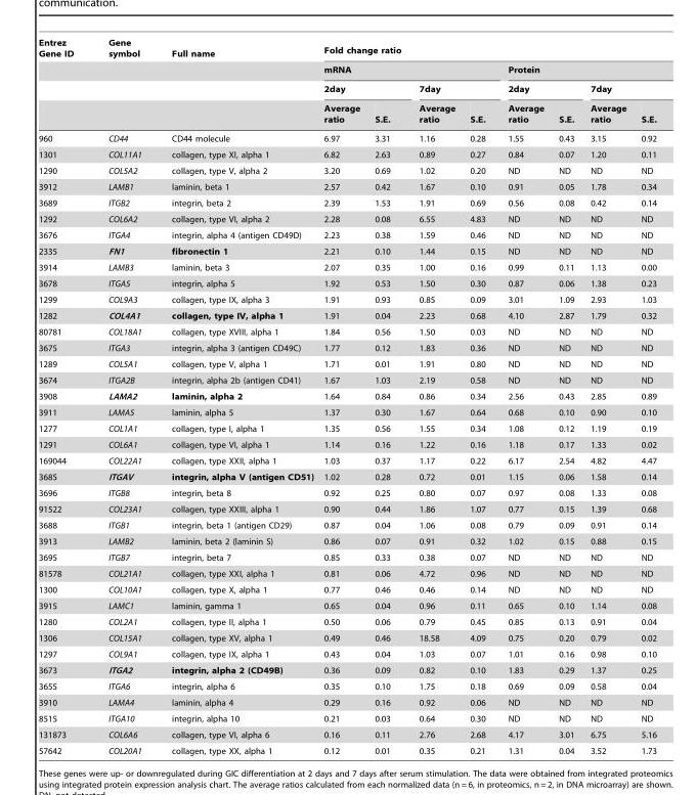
<table><thead><tr><td rowspan="4">Entrez Gene ID</td><td rowspan="4">Gene symbol</td><td rowspan="4">Full name</td><td colspan="8">Fold change ratio</td></tr><tr><td colspan="4">mRNA</td><td colspan="4">Protein</td></tr><tr><td colspan="2">2day</td><td colspan="2">7day</td><td colspan="2">2day</td><td colspan="2">7day</td></tr><tr><td>Average ratio</td><td>S.E.</td><td>Average ratio</td><td>S.E.</td><td>Average ratio</td><td>S.E.</td><td>Average ratio</td><td>S.E.</td></tr></thead><tbody><tr><td>960</td><td>CD44</td><td>CD44 molecule</td><td>6.97</td><td>3.31</td><td>1.16</td><td>0.28</td><td>1.55</td><td>0.43</td><td>3.15</td><td>0.92</td></tr><tr><td>1301</td><td>COL11A1</td><td>collagen, type XI, alpha 1</td><td>6.82</td><td>2.63</td><td>0.89</td><td>0.27</td><td>0.84</td><td>0.07</td><td>1.20</td><td>0.11</td></tr><tr><td>1290</td><td>COL5A2</td><td>collagen, type V, alpha 2</td><td>3.20</td><td>0.69</td><td>1.02</td><td>0.20</td><td>ND</td><td>ND</td><td>ND</td><td>ND</td></tr><tr><td>3912</td><td>LAMB1</td><td>laminin, beta 1</td><td>2.57</td><td>0.42</td><td>1.67</td><td>0.10</td><td>0.91</td><td>0.05</td><td>1.78</td><td>0.34</td></tr><tr><td>3689</td><td>ITGB2</td><td>integrin, beta 2</td><td>2.39</td><td>1.53</td><td>1.91</td><td>0.69</td><td>0.56</td><td>0.08</td><td>0.42</td><td>0.14</td></tr><tr><td>1292</td><td>COL6A2</td><td>collagen, type VI, alpha 2</td><td>2.28</td><td>0.08</td><td>6.55</td><td>4.83</td><td>ND</td><td>ND</td><td>ND</td><td>ND</td></tr><tr><td>3676</td><td>ITGA4</td><td>integrin, alpha 4 (antigen CD49D)</td><td>2.23</td><td>0.38</td><td>1.59</td><td>0.46</td><td>ND</td><td>ND</td><td>ND</td><td>ND</td></tr><tr><td>2335</td><td>FN1</td><td>fibronectin 1</td><td>2.21</td><td>0.10</td><td>1.44</td><td>0.15</td><td>ND</td><td>ND</td><td>ND</td><td>ND</td></tr><tr><td>3914</td><td>LAMB3</td><td>laminin, beta 3</td><td>2.07</td><td>0.35</td><td>1.00</td><td>0.16</td><td>0.99</td><td>0.11</td><td>1.13</td><td>0.00</td></tr><tr><td>3678</td><td>ITGA5</td><td>integrin, alpha 5</td><td>1.92</td><td>0.53</td><td>1.50</td><td>0.30</td><td>0.87</td><td>0.06</td><td>1.38</td><td>0.23</td></tr><tr><td>1299</td><td>COL9A3</td><td>collagen, type IX, alpha 3</td><td>1.91</td><td>0.93</td><td>0.85</td><td>0.09</td><td>3.01</td><td>1.09</td><td>2.93</td><td>1.03</td></tr><tr><td>1282</td><td>COL4A1</td><td>collagen, type IV, alpha 1</td><td>1.91</td><td>0.04</td><td>2.23</td><td>0.68</td><td>4.10</td><td>2.87</td><td>1.79</td><td>0.32</td></tr><tr><td>80781</td><td>COL18A1</td><td>collagen, type XVIII, alpha 1</td><td>1.84</td><td>0.56</td><td>1.50</td><td>0.03</td><td>ND</td><td>ND</td><td>ND</td><td>ND</td></tr><tr><td>3675</td><td>ITGA3</td><td>integrin, alpha 3 (antigen CD49C)</td><td>1.77</td><td>0.12</td><td>1.83</td><td>0.36</td><td>ND</td><td>ND</td><td>ND</td><td>ND</td></tr><tr><td>1289</td><td>COL5A1</td><td>collagen, type V, alpha 1</td><td>1.71</td><td>0.01</td><td>1.91</td><td>0.80</td><td>ND</td><td>ND</td><td>ND</td><td>ND</td></tr><tr><td>3674</td><td>ITGA2B</td><td>integrin, alpha 2b (antigen CD41)</td><td>1.67</td><td>1.03</td><td>2.19</td><td>0.58</td><td>ND</td><td>ND</td><td>ND</td><td>ND</td></tr><tr><td>3908</td><td>LAMA2</td><td>laminin, alpha 2</td><td>1.64</td><td>0.84</td><td>0.86</td><td>0.34</td><td>2.56</td><td>0.43</td><td>2.85</td><td>0.89</td></tr><tr><td>3911</td><td>LAMA5</td><td>laminin, alpha 5</td><td>1.37</td><td>0.30</td><td>1.67</td><td>0.64</td><td>0.68</td><td>0.10</td><td>0.90</td><td>0.10</td></tr><tr><td>1277</td><td>COL1A1</td><td>collagen, type I, alpha 1</td><td>1.35</td><td>0.56</td><td>1.55</td><td>0.34</td><td>1.08</td><td>0.12</td><td>1.19</td><td>0.19</td></tr><tr><td>1291</td><td>COL6A1</td><td>collagen, type VI, alpha 1</td><td>1.14</td><td>0.16</td><td>1.22</td><td>0.16</td><td>1.18</td><td>0.17</td><td>1.33</td><td>0.02</td></tr><tr><td>169044</td><td>COL22A1</td><td>collagen, type XXII, alpha 1</td><td>1.03</td><td>0.37</td><td>1.17</td><td>0.22</td><td>6.17</td><td>2.54</td><td>4.82</td><td>4.47</td></tr><tr><td>3685</td><td>ITGAV</td><td>integrin, alpha V (antigen CD51)</td><td>1.02</td><td>0.28</td><td>0.72</td><td>0.01</td><td>1.15</td><td>0.06</td><td>1.58</td><td>0.14</td></tr><tr><td>3696</td><td>ITGB8</td><td>integrin, beta 8</td><td>0.92</td><td>0.25</td><td>0.80</td><td>0.07</td><td>0.97</td><td>0.08</td><td>1.33</td><td>0.08</td></tr><tr><td>91522</td><td>COL23A1</td><td>collagen, type XXIII, alpha 1</td><td>0.90</td><td>0.44</td><td>1.86</td><td>1.07</td><td>0.77</td><td>0.15</td><td>1.39</td><td>0.68</td></tr><tr><td>3688</td><td>ITGB1</td><td>integrin, beta 1 (antigen CD29)</td><td>0.87</td><td>0.04</td><td>1.06</td><td>0.08</td><td>0.79</td><td>0.09</td><td>0.91</td><td>0.14</td></tr><tr><td>3913</td><td>LAMB2</td><td>laminin, beta 2 (laminin S)</td><td>0.86</td><td>0.07</td><td>0.91</td><td>0.32</td><td>1.02</td><td>0.15</td><td>0.88</td><td>0.15</td></tr><tr><td>3695</td><td>ITGB7</td><td>integrin, beta 7</td><td>0.85</td><td>0.33</td><td>0.38</td><td>0.07</td><td>ND</td><td>ND</td><td>ND</td><td>ND</td></tr><tr><td>81578</td><td>COL21A1</td><td>collagen, type XXI, alpha 1</td><td>0.81</td><td>0.06</td><td>4.72</td><td>0.96</td><td>ND</td><td>ND</td><td>ND</td><td>ND</td></tr><tr><td>1300</td><td>COL10A1</td><td>collagen, type X, alpha 1</td><td>0.77</td><td>0.46</td><td>0.46</td><td>0.14</td><td>ND</td><td>ND</td><td>ND</td><td>ND</td></tr><tr><td>3915</td><td>LAMC1</td><td>laminin, gamma 1</td><td>0.65</td><td>0.04</td><td>0.96</td><td>0.11</td><td>0.65</td><td>0.10</td><td>1.14</td><td>0.08</td></tr><tr><td>1280</td><td>COL2A1</td><td>collagen, type II, alpha 1</td><td>0.50</td><td>0.06</td><td>0.79</td><td>0.45</td><td>0.85</td><td>0.13</td><td>0.91</td><td>0.04</td></tr><tr><td>1306</td><td>COL15A1</td><td>collagen, type XV, alpha 1</td><td>0.49</td><td>0.46</td><td>18.58</td><td>4.09</td><td>0.75</td><td>0.20</td><td>0.79</td><td>0.02</td></tr><tr><td>1297</td><td>COL9A1</td><td>collagen, type IX, alpha 1</td><td>0.43</td><td>0.04</td><td>1.03</td><td>0.07</td><td>1.01</td><td>0.16</td><td>0.98</td><td>0.10</td></tr><tr><td>3673</td><td>ITGA2</td><td>integrin, alpha 2 (CD49B)</td><td>0.36</td><td>0.09</td><td>0.82</td><td>0.10</td><td>1.83</td><td>0.29</td><td>1.37</td><td>0.25</td></tr><tr><td>3655</td><td>ITGA6</td><td>integrin, alpha 6</td><td>0.35</td><td>0.10</td><td>1.75</td><td>0.18</td><td>0.69</td><td>0.09</td><td>0.58</td><td>0.04</td></tr><tr><td>3910</td><td>LAMA4</td><td>laminin, alpha 4</td><td>0.29</td><td>0.16</td><td>0.92</td><td>0.06</td><td>ND</td><td>ND</td><td>ND</td><td>ND</td></tr><tr><td>8515</td><td>ITGA10</td><td>integrin, alpha 10</td><td>0.21</td><td>0.03</td><td>0.64</td><td>0.30</td><td>ND</td><td>ND</td><td>ND</td><td>ND</td></tr><tr><td>131873</td><td>COL6A6</td><td>collagen, type VI, alpha 6</td><td>0.16</td><td>0.11</td><td>2.76</td><td>2.68</td><td>4.17</td><td>3.01</td><td>6.75</td><td>5.16</td></tr><tr><td>57642</td><td>COL20A1</td><td>collagen, type XX, alpha 1</td><td>0.12</td><td>0.01</td><td>0.35</td><td>0.21</td><td>1.31</td><td>0.04</td><td>3.52</td><td>1.73</td></tr></tbody></table>